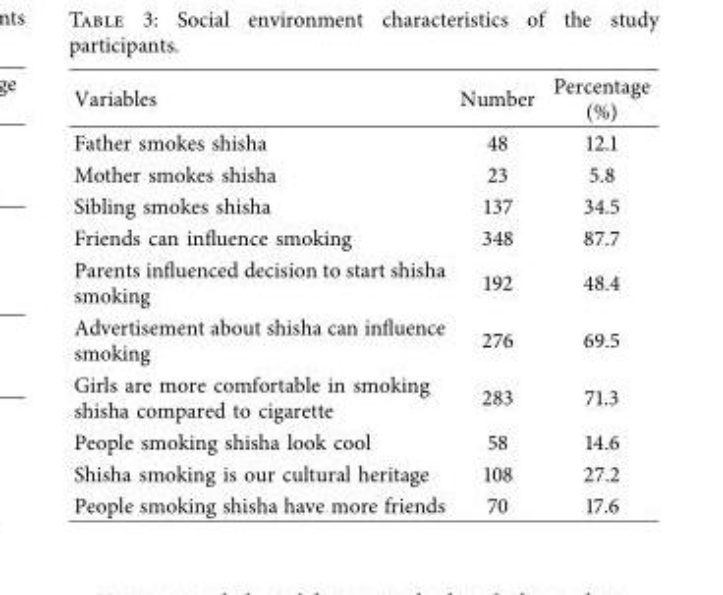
<table><thead><tr><td>Variables</td><td>Number</td><td>Percentage (%)</td></tr></thead><tbody><tr><td>Father smokes shisha</td><td>48</td><td>12.1</td></tr><tr><td>Mother smokes shisha</td><td>23</td><td>5.8</td></tr><tr><td>Sibling smokes shisha</td><td>137</td><td>34.5</td></tr><tr><td>Friends can infuence smoking</td><td>348</td><td>87.7</td></tr><tr><td>Parents infuenced decision to start shisha smoking</td><td>192</td><td>48.4</td></tr><tr><td>Advertisement about shisha can infuence smoking</td><td>276</td><td>69.5</td></tr><tr><td>Girls are more comfortable in smoking shisha compared to cigarette</td><td>283</td><td>71.3</td></tr><tr><td>People smoking shisha look cool</td><td>58</td><td>14.6</td></tr><tr><td>Shisha smoking is our cultural heritage</td><td>108</td><td>27.2</td></tr><tr><td>People smoking shisha have more friends</td><td>70</td><td>17.6</td></tr></tbody></table>